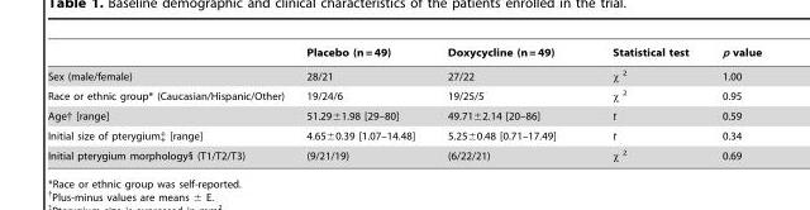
<table><thead><tr><td></td><td>Placebo (n = 49)</td><td>Doxycycline (n = 49)</td><td>Statistical test</td><td>p value</td></tr></thead><tbody><tr><td>Sex (male/female)</td><td>28/21</td><td>27/22</td><td>x 2</td><td>1.00</td></tr><tr><td>Race or ethnic group* (Caucasian/Hispanic/Other)</td><td>19/24/6</td><td>19/25/5</td><td>x 2</td><td>0.95</td></tr><tr><td>Age† [range]</td><td>51.29±1.98 [29–80]</td><td>49.7162.14 [20–86]</td><td>t</td><td>0.59</td></tr><tr><td>Initial size of pterygium‡ [range]</td><td>4.65±0.39 [1.07–14.48]</td><td>5.25±0.48 [0.71–17.49]</td><td>t</td><td>0.34</td></tr><tr><td>Initial pterygium morphology§ (T1/T2/T3)</td><td>(9/21/19)</td><td>(6/22/21)</td><td>x 2</td><td>0.69</td></tr></tbody></table>